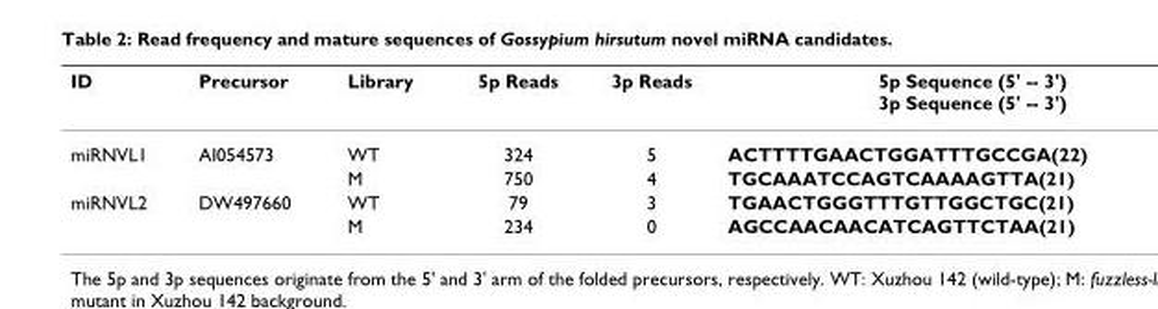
<table><thead><tr><td>ID</td><td>Precursor</td><td>Library</td><td>5p Reads</td><td>3p Reads</td><td>5p Sequence (5&#x27; -- 3&#x27;) 3p Sequence (5&#x27; -- 3&#x27;)</td></tr></thead><tbody><tr><td rowspan="2">miRNVL1</td><td>AI054573</td><td>WT</td><td>324</td><td>5</td><td>ACTTTTGAACTGGATTTGCCGA(22)</td></tr><tr><td></td><td>M</td><td>750</td><td>4</td><td>TGCAAATCCAGTCAAAAGTTA(21)</td></tr><tr><td rowspan="2">miRNVL2</td><td>DW497660</td><td>WT</td><td>79</td><td>3</td><td>TGAACTGGGTTTGTTGGCTGC(21)</td></tr><tr><td></td><td>M</td><td>234</td><td>0</td><td>AGCCAACAACATCAGTTCTAA(21)</td></tr></tbody></table>